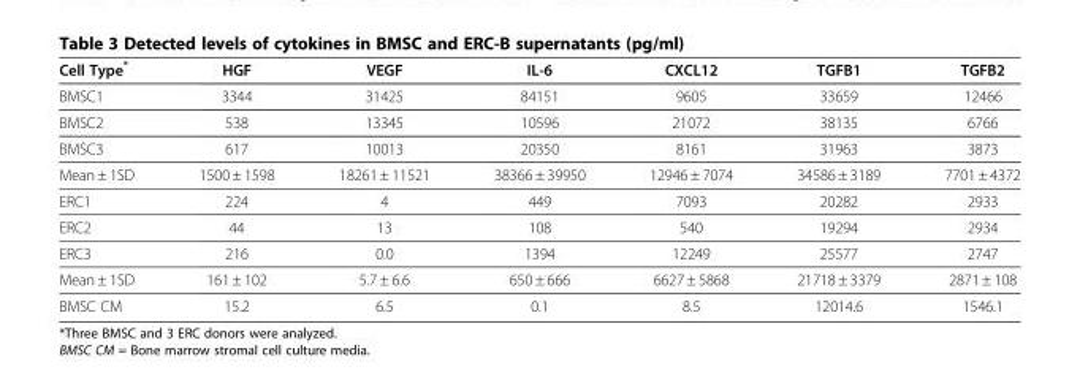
<table><thead><tr><td>Cell Type*</td><td>HGF</td><td>VEGF</td><td>IL-6</td><td>CXCL12</td><td>TGFB1</td><td>TGFB2</td></tr></thead><tbody><tr><td>BMSC1</td><td>3344</td><td>31425</td><td>84151</td><td>9605</td><td>33659</td><td>12466</td></tr><tr><td>BMSC2</td><td>538</td><td>13345</td><td>10596</td><td>21072</td><td>38135</td><td>6766</td></tr><tr><td>BMSC3</td><td>617</td><td>10013</td><td>20350</td><td>8161</td><td>31963</td><td>3873</td></tr><tr><td>Mean ± 1SD</td><td>1500 ± 1598</td><td>18261 ± 11521</td><td>38366 ± 39950</td><td>12946 ± 7074</td><td>34586 ± 3189</td><td>7701 ± 4372</td></tr><tr><td>ERC1</td><td>224</td><td>4</td><td>449</td><td>7093</td><td>20282</td><td>2933</td></tr><tr><td>ERC2</td><td>44</td><td>13</td><td>108</td><td>540</td><td>19294</td><td>2934</td></tr><tr><td>ERC3</td><td>216</td><td>0.0</td><td>1394</td><td>12249</td><td>25577</td><td>2747</td></tr><tr><td>Mean ± 1SD</td><td>161 ± 102</td><td>5.7 ± 6.6</td><td>650 ± 666</td><td>6627 ± 5868</td><td>21718 ± 3379</td><td>2871 ± 108</td></tr><tr><td>BMSC CM</td><td>15.2</td><td>6.5</td><td>0.1</td><td>8.5</td><td>12014.6</td><td>1546.1</td></tr></tbody></table>